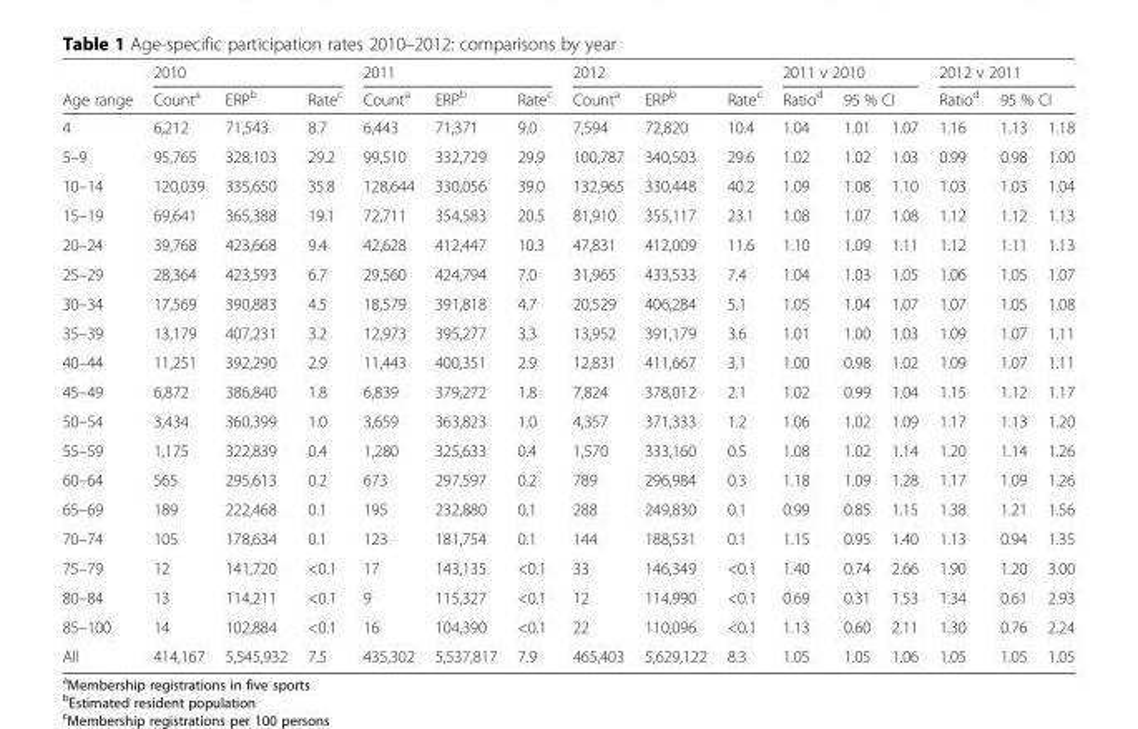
<table><thead><tr><td rowspan="3">Age range 4</td><td colspan="3">2010</td><td colspan="3">2011</td><td colspan="3">2012</td><td colspan="3">2011 v 2010</td><td colspan="3">2012 v 2011</td></tr><tr><td rowspan="2">Count<sup>a</sup> 6,212</td><td rowspan="2">ERP<sup>b</sup> 71,543</td><td rowspan="2">Rate<sup>c</sup> 8.7</td><td rowspan="2">Count<sup>a</sup> 6,443</td><td rowspan="2">ERP<sup>b</sup> 71,371</td><td rowspan="2">Rate<sup>c</sup> 9.0</td><td rowspan="2">Count<sup>a</sup> 7,594</td><td rowspan="2">ERP<sup>b</sup> 72,820</td><td rowspan="2">Rate<sup>c</sup> 10.4</td><td rowspan="2">Ratio<sup>d</sup> 1.04</td><td colspan="2">95 % CI</td><td rowspan="2">Ratio<sup>d</sup> 1.16</td><td colspan="2">95 % CI</td></tr><tr><td>1.01</td><td>1.07</td><td>1.13</td><td>1.18</td></tr></thead><tbody><tr><td>5–9</td><td>95,765</td><td>328,103</td><td>29.2</td><td>99,510</td><td>332,729</td><td>29.9</td><td>100,787</td><td>340,503</td><td>29.6</td><td>1.02</td><td>1.02</td><td>1.03</td><td>0.99</td><td>0.98</td><td>1.00</td></tr><tr><td>10–14</td><td>120,039</td><td>335,650</td><td>35.8</td><td>128,644</td><td>330,056</td><td>39.0</td><td>132,965</td><td>330,448</td><td>40.2</td><td>1.09</td><td>1.08</td><td>1.10</td><td>1.03</td><td>1.03</td><td>1.04</td></tr><tr><td>15–19</td><td>69,641</td><td>365,388</td><td>19.1</td><td>72,711</td><td>354,583</td><td>20.5</td><td>81,910</td><td>355,117</td><td>23.1</td><td>1.08</td><td>1.07</td><td>1.08</td><td>1.12</td><td>1.12</td><td>1.13</td></tr><tr><td>20–24</td><td>39,768</td><td>423,668</td><td>9.4</td><td>42,628</td><td>412,447</td><td>10.3</td><td>47,831</td><td>412,009</td><td>11.6</td><td>1.10</td><td>1.09</td><td>1.11</td><td>1.12</td><td>1.11</td><td>1.13</td></tr><tr><td>25–29</td><td>28,364</td><td>423,593</td><td>6.7</td><td>29,560</td><td>424,794</td><td>7.0</td><td>31,965</td><td>433,533</td><td>7.4</td><td>1.04</td><td>1.03</td><td>1.05</td><td>1.06</td><td>1.05</td><td>1.07</td></tr><tr><td>30–34</td><td>17,569</td><td>390,883</td><td>4.5</td><td>18,579</td><td>391,818</td><td>4.7</td><td>20,529</td><td>406,284</td><td>5.1</td><td>1.05</td><td>1.04</td><td>1.07</td><td>1.07</td><td>1.05</td><td>1.08</td></tr><tr><td>35–39</td><td>13,179</td><td>407,231</td><td>3.2</td><td>12,973</td><td>395,277</td><td>3.3</td><td>13,952</td><td>391,179</td><td>3.6</td><td>1.01</td><td>1.00</td><td>1.03</td><td>1.09</td><td>1.07</td><td>1.11</td></tr><tr><td>40–44</td><td>11,251</td><td>392,290</td><td>2.9</td><td>11,443</td><td>400,351</td><td>2.9</td><td>12,831</td><td>411,667</td><td>3.1</td><td>1.00</td><td>0.98</td><td>1.02</td><td>1.09</td><td>1.07</td><td>1.11</td></tr><tr><td>45–49</td><td>6,872</td><td>386,840</td><td>1.8</td><td>6,839</td><td>379,272</td><td>1.8</td><td>7,824</td><td>378,012</td><td>2.1</td><td>1.02</td><td>0.99</td><td>1.04</td><td>1.15</td><td>1.12</td><td>1.17</td></tr><tr><td>50–54</td><td>3,434</td><td>360,399</td><td>1.0</td><td>3,659</td><td>363,823</td><td>1.0</td><td>4,357</td><td>371,333</td><td>1.2</td><td>1.06</td><td>1.02</td><td>1.09</td><td>1.17</td><td>1.13</td><td>1.20</td></tr><tr><td>55–59</td><td>1,175</td><td>322,839</td><td>0.4</td><td>1,280</td><td>325,633</td><td>0.4</td><td>1,570</td><td>333,160</td><td>0.5</td><td>1.08</td><td>1.02</td><td>1.14</td><td>1.20</td><td>1.14</td><td>1.26</td></tr><tr><td>60–64</td><td>565</td><td>295,613</td><td>0.2</td><td>673</td><td>297,597</td><td>0.2</td><td>789</td><td>296,984</td><td>0.3</td><td>1.18</td><td>1.09</td><td>1.28</td><td>1.17</td><td>1.09</td><td>1.26</td></tr><tr><td>65–69</td><td>189</td><td>222,468</td><td>0.1</td><td>195</td><td>232,880</td><td>0.1</td><td>288</td><td>249,830</td><td>0.1</td><td>0.99</td><td>0.85</td><td>1.15</td><td>1.38</td><td>1.21</td><td>1.56</td></tr><tr><td>70–74</td><td>105</td><td>178,634</td><td>0.1</td><td>123</td><td>181,754</td><td>0.1</td><td>144</td><td>188,531</td><td>0.1</td><td>1.15</td><td>0.95</td><td>1.40</td><td>1.13</td><td>0.94</td><td>1.35</td></tr><tr><td>75–79</td><td>12</td><td>141,720</td><td>&lt;0.1</td><td>17</td><td>143,135</td><td>&lt;0.1</td><td>33</td><td>146,349</td><td>&lt;0.1</td><td>1.40</td><td>0.74</td><td>2.66</td><td>1.90</td><td>1.20</td><td>3.00</td></tr><tr><td>80–84</td><td>13</td><td>114,211</td><td>&lt;0.1</td><td>9</td><td>115,327</td><td>&lt;0.1</td><td>12</td><td>114,990</td><td>&lt;0.1</td><td>0.69</td><td>0.31</td><td>1.53</td><td>1.34</td><td>0.61</td><td>2.93</td></tr><tr><td>85–100</td><td>14</td><td>102,884</td><td>&lt;0.1</td><td>16</td><td>104,390</td><td>&lt;0.1</td><td>22</td><td>110,096</td><td>&lt;0.1</td><td>1.13</td><td>0.60</td><td>2.11</td><td>1.30</td><td>0.76</td><td>2.24</td></tr><tr><td>All</td><td>414,167</td><td>5,545,932</td><td>7.5</td><td>435,302</td><td>5,537,817</td><td>7.9</td><td>465,403</td><td>5,629,122</td><td>8.3</td><td>1.05</td><td>1.05</td><td>1.06</td><td>1.05</td><td>1.05</td><td>1.05</td></tr></tbody></table>